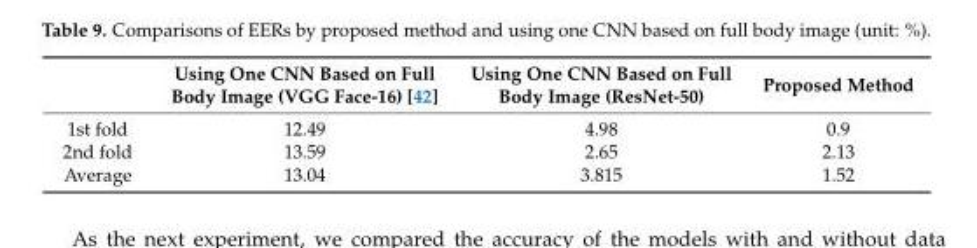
<table><thead><tr><td></td><td>Using One CNN Based on Full Body Image (VGG Face-16) [42]</td><td>Using One CNN Based on Full Body Image (ResNet-50)</td><td>Proposed Method</td></tr></thead><tbody><tr><td>1st fold</td><td>12.49</td><td>4.98</td><td>0.9</td></tr><tr><td>2nd fold</td><td>13.59</td><td>2.65</td><td>2.13</td></tr><tr><td>Average</td><td>13.04</td><td>3.815</td><td>1.52</td></tr></tbody></table>